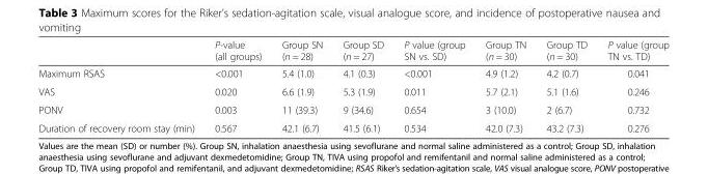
<table><thead><tr><td></td><td>P-value (all groups)</td><td>Group SN (n = 28)</td><td>Group SD (n = 27)</td><td>P value (group SN vs. SD)</td><td>Group TN (n = 30)</td><td>Group TD (n = 30)</td><td>P value (group TN vs. TD)</td></tr></thead><tbody><tr><td>Maximum RSAS</td><td>&lt;0.001</td><td>5.4 (1.0)</td><td>4.1 (0.3)</td><td>&lt;0.001</td><td>4.9 (1.2)</td><td>4.2 (0.7)</td><td>0.041</td></tr><tr><td>VAS</td><td>0.020</td><td>6.6 (1.9)</td><td>5.3 (1.9)</td><td>0.011</td><td>5.7 (2.1)</td><td>5.1 (1.6)</td><td>0.246</td></tr><tr><td>PONV</td><td>0.003</td><td>11 (39.3)</td><td>9 (34.6)</td><td>0.654</td><td>3 (10.0)</td><td>2 (6.7)</td><td>0.732</td></tr><tr><td>Duration of recovery room stay (min)</td><td>0.567</td><td>42.1 (6.7)</td><td>41.5 (6.1)</td><td>0.534</td><td>42.0 (7.3)</td><td>43.2 (7.3)</td><td>0.276</td></tr></tbody></table>